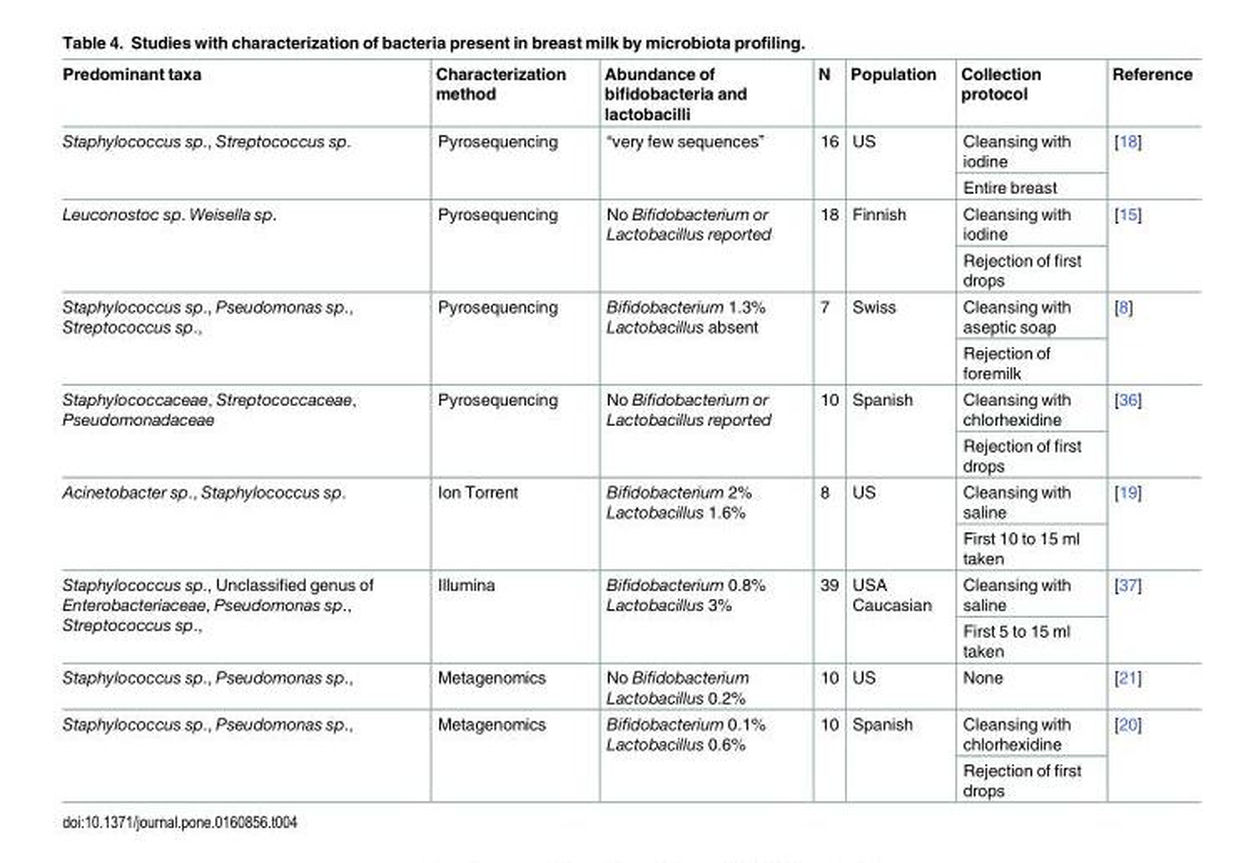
<table><thead><tr><td>Predominant taxa</td><td>Characterization method</td><td>Abundance of bifidobacteria and lactobacilli</td><td>N</td><td>Population</td><td>Collection protocol</td><td>Reference</td></tr></thead><tbody><tr><td rowspan="2">Staphylococcus sp., Streptococcus sp.</td><td rowspan="2">Pyrosequencing</td><td rowspan="2">“very few sequences”</td><td rowspan="2">16</td><td rowspan="2">US</td><td>Cleansing with iodine</td><td rowspan="2">[18]</td></tr><tr><td>Entire breast</td></tr><tr><td rowspan="2">Leuconostoc sp. Weisella sp.</td><td rowspan="2">Pyrosequencing</td><td rowspan="2">No Bifidobacterium or Lactobacillus reported</td><td rowspan="2">18</td><td rowspan="2">Finnish</td><td>Cleansing with iodine</td><td rowspan="2">[15]</td></tr><tr><td>Rejection of first drops</td></tr><tr><td rowspan="2">Staphylococcus sp., Pseudomonas sp., Streptococcus sp.,</td><td rowspan="2">Pyrosequencing</td><td rowspan="2">Bifidobacterium 1.3% Lactobacillus absent</td><td rowspan="2">7</td><td rowspan="2">Swiss</td><td>Cleansing with aseptic soap</td><td rowspan="2">[8]</td></tr><tr><td>Rejection of foremilk</td></tr><tr><td rowspan="2">Staphylococcaceae, Streptococcaceae, Pseudomonadaceae</td><td rowspan="2">Pyrosequencing</td><td rowspan="2">No Bifidobacterium or Lactobacillus reported</td><td rowspan="2">10</td><td rowspan="2">Spanish</td><td>Cleansing with chlorhexidine</td><td rowspan="2">[36]</td></tr><tr><td>Rejection of first drops</td></tr><tr><td rowspan="2">Acinetobacter sp., Staphylococcus sp.</td><td rowspan="2">Ion Torrent</td><td rowspan="2">Bifidobacterium 2% Lactobacillus 1.6%</td><td rowspan="2">8</td><td rowspan="2">US</td><td>Cleansing with saline</td><td rowspan="2">[19]</td></tr><tr><td>First 10 to 15 ml taken</td></tr><tr><td rowspan="2">Staphylococcus sp., Unclassified genus of Enterobacteriaceae, Pseudomonas sp., Streptococcus sp.,</td><td rowspan="2">Illumina</td><td rowspan="2">Bifidobacterium 0.8% Lactobacillus 3%</td><td rowspan="2">39</td><td rowspan="2">USA Caucasian</td><td>Cleansing with saline</td><td rowspan="2">[37]</td></tr><tr><td>First 5 to 15 ml taken</td></tr><tr><td>Staphylococcus sp., Pseudomonas sp.,</td><td>Metagenomics</td><td>No Bifidobacterium Lactobacillus 0.2%</td><td>10</td><td>US</td><td>None</td><td>[21]</td></tr><tr><td rowspan="2">Staphylococcus sp., Pseudomonas sp.,</td><td rowspan="2">Metagenomics</td><td rowspan="2">Bifidobacterium 0.1% Lactobacillus 0.6%</td><td rowspan="2">10</td><td rowspan="2">Spanish</td><td>Cleansing with chlorhexidine</td><td rowspan="2">[20]</td></tr><tr><td>Rejection of first drops</td></tr></tbody></table>